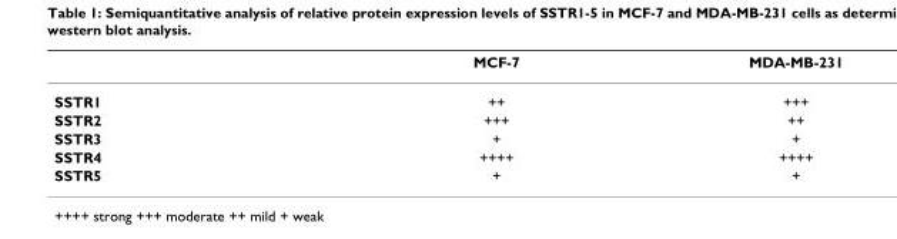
<table><thead><tr><td></td><td>MCF-7</td><td>MDA-MB-231</td></tr></thead><tbody><tr><td>SSTR1</td><td>++</td><td>+++</td></tr><tr><td>SSTR2</td><td>+++</td><td>++</td></tr><tr><td>SSTR3</td><td>+</td><td>+</td></tr><tr><td>SSTR4</td><td>++++</td><td>++++</td></tr><tr><td>SSTR5</td><td>+</td><td>+</td></tr></tbody></table>